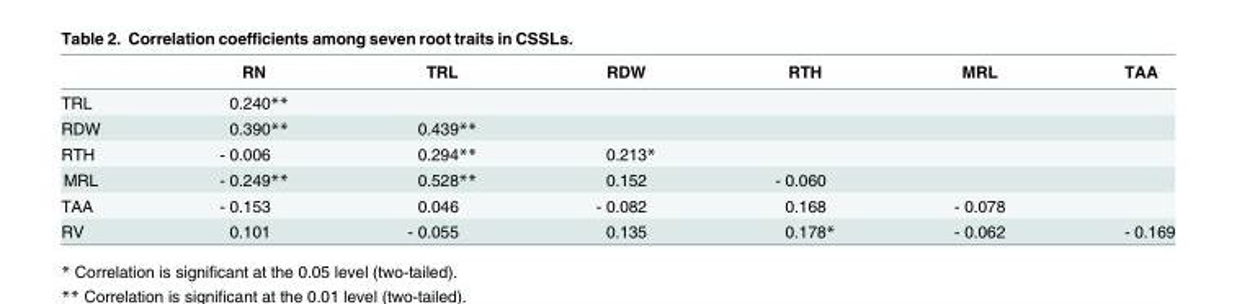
<table><thead><tr><td></td><td>RN</td><td>TRL</td><td>RDW</td><td>RTH</td><td>MRL</td><td>TAA</td></tr></thead><tbody><tr><td>TRL</td><td>0.240**</td><td></td><td></td><td></td><td></td><td></td></tr><tr><td>RDW</td><td>0.390**</td><td>0.439**</td><td></td><td></td><td></td><td></td></tr><tr><td>RTH</td><td>- 0.006</td><td>0.294**</td><td>0.213*</td><td></td><td></td><td></td></tr><tr><td>MRL</td><td>- 0.249**</td><td>0.528**</td><td>0.152</td><td>- 0.060</td><td></td><td></td></tr><tr><td>TAA</td><td>- 0.153</td><td>0.046</td><td>- 0.082</td><td>0.168</td><td>- 0.078</td><td></td></tr><tr><td>RV</td><td>0.101</td><td>- 0.055</td><td>0.135</td><td>0.178*</td><td>- 0.062</td><td>- 0.169</td></tr></tbody></table>